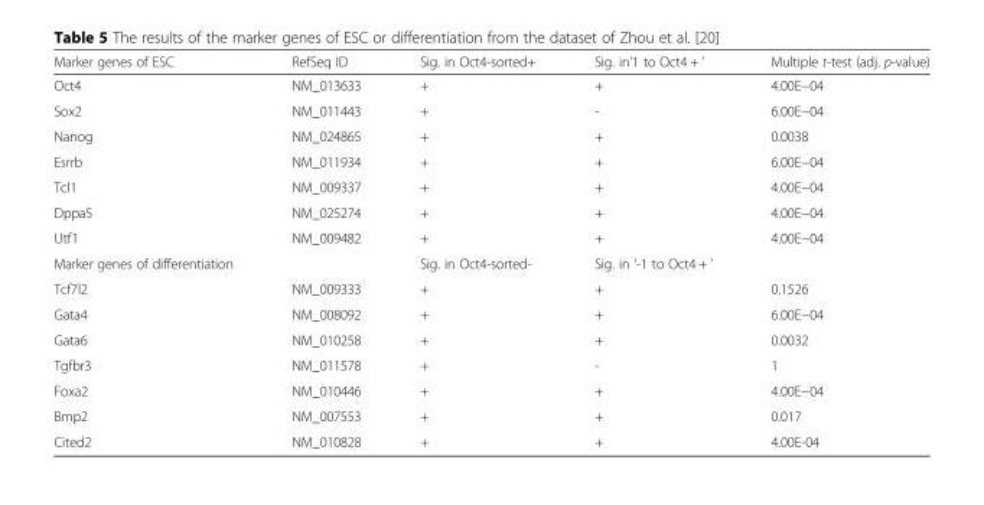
<table><thead><tr><td>Marker genes of ESC</td><td>RefSeq ID</td><td>Sig. in Oct4-sorted+</td><td>Sig. in’1 to Oct4 + ’</td><td>Multiple t-test (adj. p-value)</td></tr></thead><tbody><tr><td>Oct4</td><td>NM_013633</td><td>+</td><td>+</td><td>4.00E−04</td></tr><tr><td>Sox2</td><td>NM_011443</td><td>+</td><td>-</td><td>6.00E−04</td></tr><tr><td>Nanog</td><td>NM_024865</td><td>+</td><td>+</td><td>0.0038</td></tr><tr><td>Esrrb</td><td>NM_011934</td><td>+</td><td>+</td><td>6.00E−04</td></tr><tr><td>Tcl1</td><td>NM_009337</td><td>+</td><td>+</td><td>4.00E−04</td></tr><tr><td>Dppa5</td><td>NM_025274</td><td>+</td><td>+</td><td>4.00E−04</td></tr><tr><td>Utf1</td><td>NM_009482</td><td>+</td><td>+</td><td>4.00E−04</td></tr><tr><td>Marker genes of differentiation</td><td></td><td>Sig. in Oct4-sorted-</td><td>Sig. in ‘-1 to Oct4 + ’</td><td></td></tr><tr><td>Tcf7l2</td><td>NM_009333</td><td>+</td><td>+</td><td>0.1526</td></tr><tr><td>Gata4</td><td>NM_008092</td><td>+</td><td>+</td><td>6.00E−04</td></tr><tr><td>Gata6</td><td>NM_010258</td><td>+</td><td>+</td><td>0.0032</td></tr><tr><td>Tgfbr3</td><td>NM_011578</td><td>+</td><td>-</td><td>1</td></tr><tr><td>Foxa2</td><td>NM_010446</td><td>+</td><td>+</td><td>4.00E−04</td></tr><tr><td>Bmp2</td><td>NM_007553</td><td>+</td><td>+</td><td>0.017</td></tr><tr><td>Cited2</td><td>NM_010828</td><td>+</td><td>+</td><td>4.00E-04</td></tr></tbody></table>